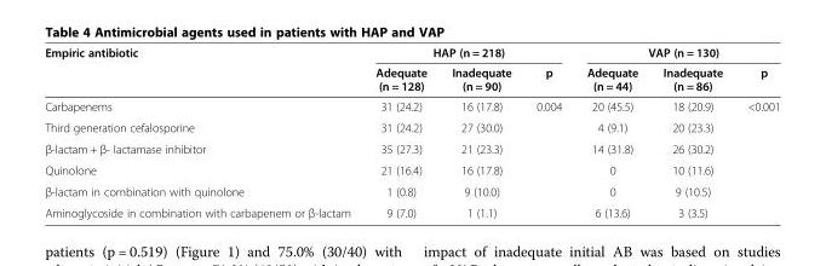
<table><thead><tr><td rowspan="2">Empiric antibiotic</td><td rowspan="2">Adequate (n = 128)</td><td rowspan="2">HAP (n = 218) Inadequate (n = 90)</td><td rowspan="2">p</td><td rowspan="2">Adequate (n = 44)</td><td rowspan="2">VAP (n = 130) Inadequate (n = 86)</td><td rowspan="2">p</td></tr><tr></tr></thead><tbody><tr><td>Carbapenems</td><td>31 (24.2)</td><td>16 (17.8)</td><td>0.004</td><td>20 (45.5)</td><td>18 (20.9)</td><td>&lt;0.001</td></tr><tr><td>Third generation cefalosporine</td><td>31 (24.2)</td><td>27 (30.0)</td><td></td><td>4 (9.1)</td><td>20 (23.3)</td><td></td></tr><tr><td>β-lactam + β- lactamase inhibitor</td><td>35 (27.3)</td><td>21 (23.3)</td><td></td><td>14 (31.8)</td><td>26 (30.2)</td><td></td></tr><tr><td>Quinolone</td><td>21 (16.4)</td><td>16 (17.8)</td><td></td><td>0</td><td>10 (11.6)</td><td></td></tr><tr><td>β-lactam in combination with quinolone</td><td>1 (0.8)</td><td>9 (10.0)</td><td></td><td>0</td><td>9 (10.5)</td><td></td></tr><tr><td>Aminoglycoside in combination with carbapenem or β-lactam</td><td>9 (7.0)</td><td>1 (1.1)</td><td></td><td>6 (13.6)</td><td>3 (3.5)</td><td></td></tr></tbody></table>